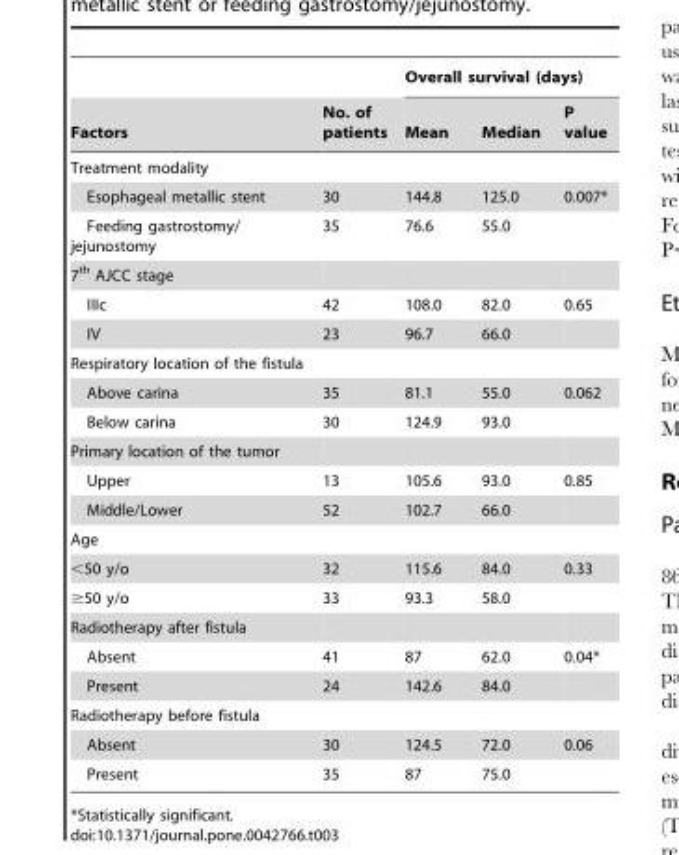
<table><thead><tr><td rowspan="2">Factors</td><td rowspan="2">No. of patients</td><td colspan="3">Overall survival (days)</td></tr><tr><td>Mean</td><td>Median</td><td>P value</td></tr></thead><tbody><tr><td colspan="5">Treatment modality</td></tr><tr><td>Esophageal metallic stent</td><td>30</td><td>144.8</td><td>125.0</td><td>0.007*</td></tr><tr><td>Feeding gastrostomy/ jejunostomy</td><td>35</td><td>76.6</td><td>55.0</td><td></td></tr><tr><td colspan="5">7<sup>th</sup> AJCC stage</td></tr><tr><td>IIIc</td><td>42</td><td>108.0</td><td>82.0</td><td>0.65</td></tr><tr><td>IV</td><td>23</td><td>96.7</td><td>66.0</td><td></td></tr><tr><td colspan="5">Respiratory location of the fistula</td></tr><tr><td>Above carina</td><td>35</td><td>81.1</td><td>55.0</td><td>0.062</td></tr><tr><td>Below carina</td><td>30</td><td>124.9</td><td>93.0</td><td></td></tr><tr><td colspan="5">Primary location of the tumor</td></tr><tr><td>Upper</td><td>13</td><td>105.6</td><td>93.0</td><td>0.85</td></tr><tr><td>Middle/Lower</td><td>52</td><td>102.7</td><td>66.0</td><td></td></tr><tr><td colspan="5">Age</td></tr><tr><td>&lt;50 y/o</td><td>32</td><td>115.6</td><td>84.0</td><td>0.33</td></tr><tr><td>≥50 y/o</td><td>33</td><td>93.3</td><td>58.0</td><td></td></tr><tr><td colspan="5">Radiotherapy after fistula</td></tr><tr><td>Absent</td><td>41</td><td>87</td><td>62.0</td><td>0.04*</td></tr><tr><td>Present</td><td>24</td><td>142.6</td><td>84.0</td><td></td></tr><tr><td colspan="5">Radiotherapy before fistula</td></tr><tr><td>Absent</td><td>30</td><td>124.5</td><td>72.0</td><td>0.06</td></tr><tr><td>Present</td><td>35</td><td>87</td><td>75.0</td><td></td></tr></tbody></table>